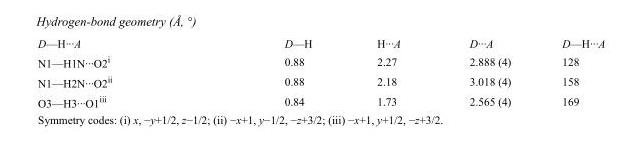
<table><tbody><tr><td>D—H···A</td><td>D—H</td><td>H···A</td><td>D···A</td><td>D—H···A</td></tr><tr><td>N1—H1N···O2<sup>i</sup></td><td>0.88</td><td>2.27</td><td>2.888 (4)</td><td>128</td></tr><tr><td>N1—H2N···O2<sup>ii</sup></td><td>0.88</td><td>2.18</td><td>3.018 (4)</td><td>158</td></tr><tr><td>O3—H3···O1<sup>iii</sup></td><td>0.84</td><td>1.73</td><td>2.565 (4)</td><td>169</td></tr></tbody></table>